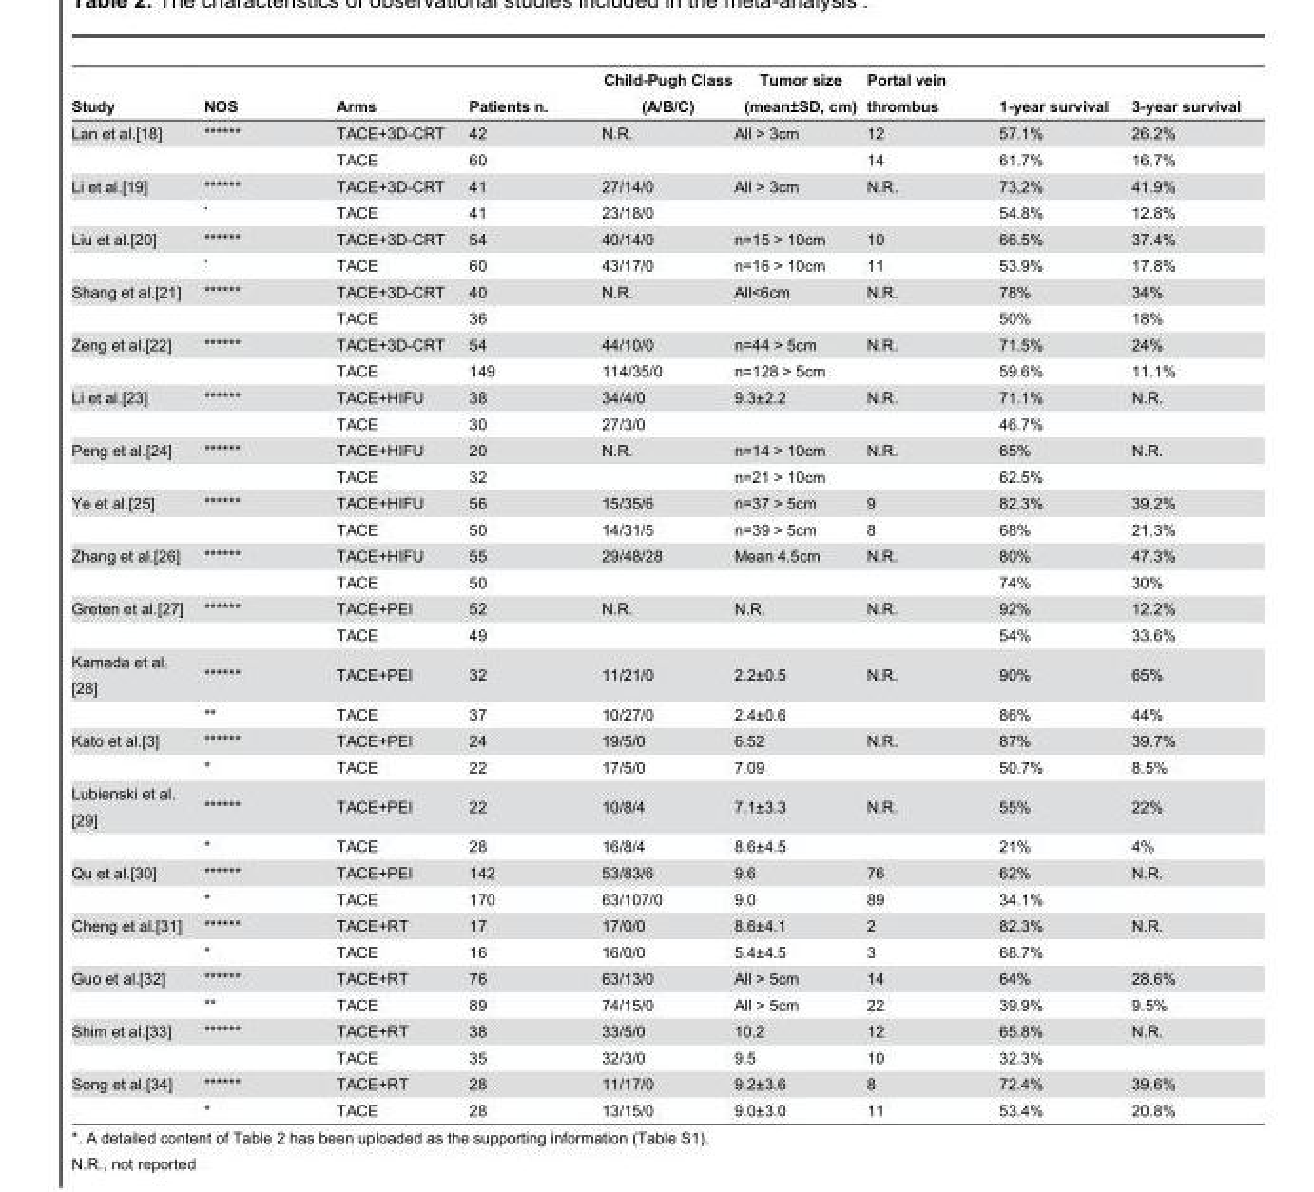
<table><thead><tr><td>Study</td><td>NOS</td><td>Arms</td><td>Patients n.</td><td>Child-Pugh Class (A/B/C)</td><td>Tumor size (mean±SD, cm)</td><td>Portal vein thrombus</td><td>1-year survival</td><td>3-year survival</td></tr></thead><tbody><tr><td rowspan="2">Lan et al.[18]</td><td>******</td><td>TACE+3D-CRT</td><td>42</td><td>N.R.</td><td>All &gt; 3cm</td><td>12</td><td>57.1%</td><td>26.2%</td></tr><tr><td></td><td>TACE</td><td>60</td><td></td><td></td><td>14</td><td>61.7%</td><td>16.7%</td></tr><tr><td rowspan="2">Li et al.[19]</td><td>******</td><td>TACE+3D-CRT</td><td>41</td><td>27/14/0</td><td>All &gt; 3cm</td><td>N.R.</td><td>73,2%</td><td>41.9%</td></tr><tr><td>*</td><td>TACE</td><td>41</td><td>23/18/0</td><td></td><td></td><td>54.8%</td><td>12.8%</td></tr><tr><td rowspan="2">Liu et al.[20]</td><td>******</td><td>TACE+3D-CRT</td><td>54</td><td>40/14/0</td><td>n=15 &gt; 10cm</td><td>10</td><td>66.5%</td><td>37.4%</td></tr><tr><td>*</td><td>TACE</td><td>60</td><td>43/17/0</td><td>n=16 &gt; 10cm</td><td>11</td><td>53.9%</td><td>17.8%</td></tr><tr><td rowspan="2">Shang et al.[21]</td><td>******</td><td>TACE+3D-CRT</td><td>40</td><td>N.R.</td><td>All&lt;6cm</td><td>N.R.</td><td>78%</td><td>34%</td></tr><tr><td></td><td>TACE</td><td>36</td><td></td><td></td><td></td><td>50%</td><td>18%</td></tr><tr><td rowspan="2">Zeng et al.[22]</td><td>******</td><td>TACE+3D-CRT</td><td>54</td><td>44/10/0</td><td>n=44 &gt; 5cm</td><td>N.R.</td><td>71.5%</td><td>24%</td></tr><tr><td></td><td>TACE</td><td>149</td><td>114/35/0</td><td>n=128 &gt; 5cm</td><td></td><td>59.6%</td><td>11.1%</td></tr><tr><td rowspan="2">Li et al.[23]</td><td>******</td><td>TACE+HIFU</td><td>38</td><td>34/4/0</td><td>9.3±2.2</td><td>N.R.</td><td>71.1%</td><td>N.R.</td></tr><tr><td></td><td>TACE</td><td>30</td><td>27/3/0</td><td></td><td></td><td>46.7%</td><td></td></tr><tr><td rowspan="2">Peng et al.[24]</td><td>******</td><td>TACE+HIFU</td><td>20</td><td>N.R.</td><td>n=14 &gt; 10cm</td><td>N.R.</td><td>65%</td><td>N.R.</td></tr><tr><td></td><td>TACE</td><td>32</td><td></td><td>n=21 &gt; 10cm</td><td></td><td>62.5%</td><td></td></tr><tr><td rowspan="2">Ye et al.[25]</td><td>******</td><td>TACE+HIFU</td><td>56</td><td>15/35/6</td><td>n=37 &gt; 5cm</td><td>9</td><td>82.3%</td><td>39.2%</td></tr><tr><td></td><td>TACE</td><td>50</td><td>14/31/5</td><td>n=39 &gt; 5cm</td><td>8</td><td>68%</td><td>21.3%</td></tr><tr><td rowspan="2">Zhang et al.[26]</td><td>******</td><td>TACE+HIFU</td><td>55</td><td>29/48/28</td><td>Mean 4.5cm</td><td>N.R.</td><td>80%</td><td>47.3%</td></tr><tr><td></td><td>TACE</td><td>50</td><td></td><td></td><td></td><td>74%</td><td>30%</td></tr><tr><td rowspan="2">Greten et al.[27]</td><td>******</td><td>TACE+PEI</td><td>52</td><td>N.R.</td><td>N.R.</td><td>N.R.</td><td>92%</td><td>12.2%</td></tr><tr><td></td><td>TACE</td><td>49</td><td></td><td></td><td></td><td>54%</td><td>33.6%</td></tr><tr><td rowspan="2">Kamada et al. [28]</td><td>******</td><td>TACE+PEI</td><td>32</td><td>11/21/0</td><td>2.2±0.5</td><td>N.R.</td><td>90%</td><td>65%</td></tr><tr><td>**</td><td>TACE</td><td>37</td><td>10/27/0</td><td>2.4±0.6</td><td></td><td>86%</td><td>44%</td></tr><tr><td rowspan="2">Kato et al.[3]</td><td>******</td><td>TACE+PEI</td><td>24</td><td>19/5/0</td><td>6.52</td><td>N.R.</td><td>87%</td><td>39.7%</td></tr><tr><td>*</td><td>TACE</td><td>22</td><td>17/5/0</td><td>7.09</td><td></td><td>50.7%</td><td>8.5%</td></tr><tr><td rowspan="2">Lubienski et al. [29]</td><td>******</td><td>TACE+PEI</td><td>22</td><td>10/8/4</td><td>7.1±3.3</td><td>N.R.</td><td>55%</td><td>22%</td></tr><tr><td>*</td><td>TACE</td><td>28</td><td>16/8/4</td><td>8.6±4.5</td><td></td><td>21%</td><td>4%</td></tr><tr><td rowspan="2">Qu et al.[30]</td><td>******</td><td>TACE+PEI</td><td>142</td><td>53/83/6</td><td>9.6</td><td>76</td><td>62%</td><td>N.R.</td></tr><tr><td>*</td><td>TACE</td><td>170</td><td>63/107/0</td><td>9.0</td><td>89</td><td>34.1%</td><td></td></tr><tr><td rowspan="2">Cheng et al.[31]</td><td>******</td><td>TACE+RT</td><td>17</td><td>17/0/0</td><td>8.6±4.1</td><td>2</td><td>82.3%</td><td>N.R.</td></tr><tr><td>*</td><td>TACE</td><td>16</td><td>16/0/0</td><td>5.4±4.5</td><td>3</td><td>68.7%</td><td></td></tr><tr><td rowspan="2">Guo et al.[32]</td><td>******</td><td>TACE+RT</td><td>76</td><td>63/13/0</td><td>All &gt; 5cm</td><td>14</td><td>64%</td><td>28.6%</td></tr><tr><td>**</td><td>TACE</td><td>89</td><td>74/15/0</td><td>All &gt; 5cm</td><td>22</td><td>39.9%</td><td>9.5%</td></tr><tr><td rowspan="2">Shim et al.[33]</td><td>******</td><td>TACE+RT</td><td>38</td><td>33/5/0</td><td>10.2</td><td>12</td><td>65.8%</td><td>N.R.</td></tr><tr><td></td><td>TACE</td><td>35</td><td>32/3/0</td><td>9.5</td><td>10</td><td>32.3%</td><td></td></tr><tr><td rowspan="2">Song et al.[34]</td><td>******</td><td>TACE+RT</td><td>28</td><td>11/17/0</td><td>9.2±3.6</td><td>8</td><td>72.4%</td><td>39.6%</td></tr><tr><td>*</td><td>TACE</td><td>28</td><td>13/15/0</td><td>9.0±3.0</td><td>11</td><td>53.4%</td><td>20.8%</td></tr></tbody></table>